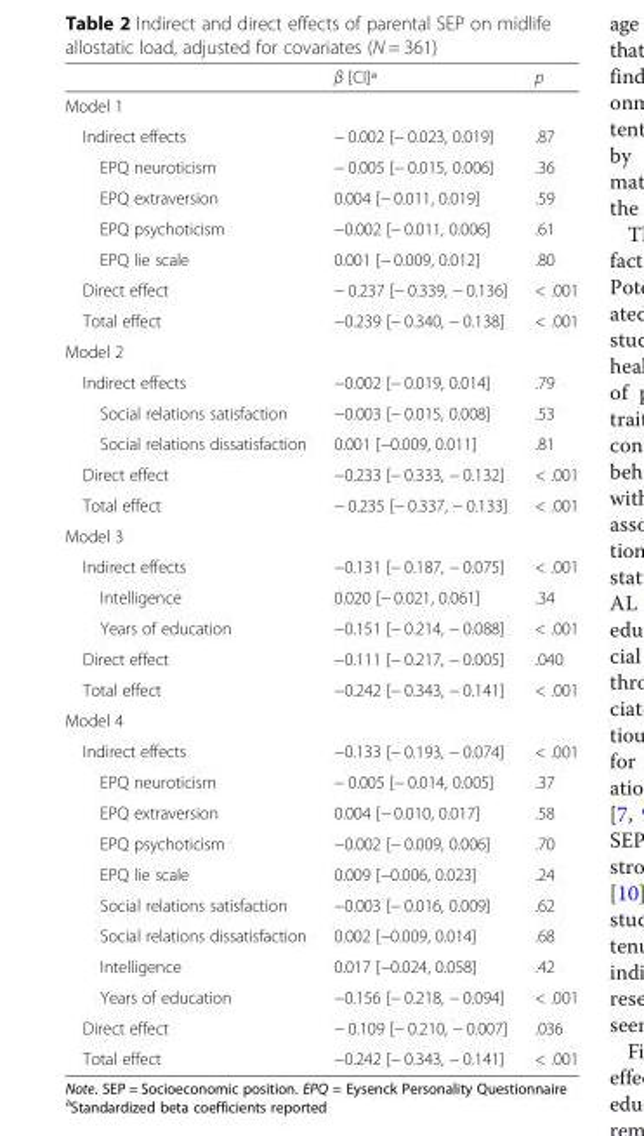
<table><thead><tr><td></td><td>β [CI]ª</td><td>p</td></tr></thead><tbody><tr><td colspan="3">Model 1</td></tr><tr><td>Indirect effects</td><td>− 0.002 [− 0.023, 0.019]</td><td>.87</td></tr><tr><td>EPQ neuroticism</td><td>− 0.005 [− 0.015, 0.006]</td><td>.36</td></tr><tr><td>EPQ extraversion</td><td>0.004 [− 0.011, 0.019]</td><td>.59</td></tr><tr><td>EPQ psychoticism</td><td>−0.002 [− 0.011, 0.006]</td><td>.61</td></tr><tr><td>EPQ lie scale</td><td>0.001 [− 0.009, 0.012]</td><td>.80</td></tr><tr><td>Direct effect</td><td>− 0.237 [− 0.339, − 0.136]</td><td>&lt; .001</td></tr><tr><td>Total effect</td><td>−0.239 [− 0.340, − 0.138]</td><td>&lt; .001</td></tr><tr><td colspan="3">Model 2</td></tr><tr><td>Indirect effects</td><td>−0.002 [− 0.019, 0.014]</td><td>.79</td></tr><tr><td>Social relations satisfaction</td><td>−0.003 [− 0.015, 0.008]</td><td>.53</td></tr><tr><td>Social relations dissatisfaction</td><td>0.001 [−0.009, 0.011]</td><td>.81</td></tr><tr><td>Direct effect</td><td>−0.233 [− 0.333, − 0.132]</td><td>&lt; .001</td></tr><tr><td>Total effect</td><td>− 0.235 [− 0.337, − 0.133]</td><td>&lt; .001</td></tr><tr><td colspan="3">Model 3</td></tr><tr><td>Indirect effects</td><td>−0.131 [− 0.187, − 0.075]</td><td>&lt; .001</td></tr><tr><td>Intelligence</td><td>0.020 [− 0.021, 0.061]</td><td>.34</td></tr><tr><td>Years of education</td><td>−0.151 [− 0.214, − 0.088]</td><td>&lt; .001</td></tr><tr><td>Direct effect</td><td>−0.111 [− 0.217, − 0.005]</td><td>.040</td></tr><tr><td>Total effect</td><td>−0.242 [− 0.343, − 0.141]</td><td>&lt; .001</td></tr><tr><td colspan="3">Model 4</td></tr><tr><td>Indirect effects</td><td>−0.133 [− 0.193, − 0.074]</td><td>&lt; .001</td></tr><tr><td>EPQ neuroticism</td><td>− 0.005 [− 0.014, 0.005]</td><td>.37</td></tr><tr><td>EPQ extraversion</td><td>0.004 [− 0.010, 0.017]</td><td>.58</td></tr><tr><td>EPQ psychoticism</td><td>−0.002 [− 0.009, 0.006]</td><td>.70</td></tr><tr><td>EPQ lie scale</td><td>0.009 [−0.006, 0.023]</td><td>.24</td></tr><tr><td>Social relations satisfaction</td><td>−0.003 [− 0.016, 0.009]</td><td>.62</td></tr><tr><td>Social relations dissatisfaction</td><td>0.002 [−0.009, 0.014]</td><td>.68</td></tr><tr><td>Intelligence</td><td>0.017 [−0.024, 0.058]</td><td>.42</td></tr><tr><td>Years of education</td><td>−0.156 [− 0.218, − 0.094]</td><td>&lt; .001</td></tr><tr><td>Direct effect</td><td>− 0.109 [− 0.210, − 0.007]</td><td>.036</td></tr><tr><td>Total effect</td><td>−0.242 [− 0.343, − 0.141]</td><td>&lt; .001</td></tr></tbody></table>